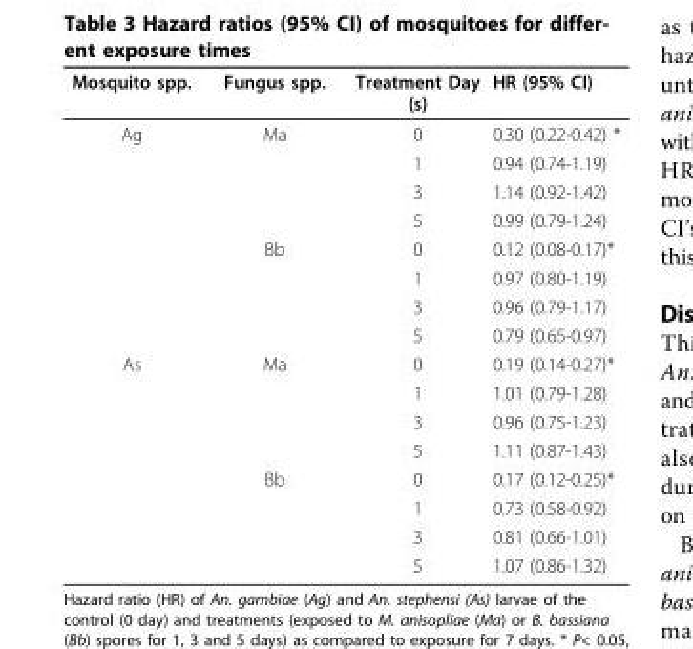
<table><thead><tr><td>Mosquito spp.</td><td>Fungus spp.</td><td>Treatment Day (s)</td><td>HR (95% CI)</td></tr></thead><tbody><tr><td rowspan="8">Ag</td><td>Ma</td><td>0</td><td>0.30 (0.22-0.42) *</td></tr><tr><td></td><td>1</td><td>0.94 (0.74-1.19)</td></tr><tr><td></td><td>3</td><td>1.14 (0.92-1.42)</td></tr><tr><td></td><td>5</td><td>0.99 (0.79-1.24)</td></tr><tr><td>Bb</td><td>0</td><td>0.12 (0.08-0.17)*</td></tr><tr><td></td><td>1</td><td>0.97 (0.80-1.19)</td></tr><tr><td></td><td>3</td><td>0.96 (0.79-1.17)</td></tr><tr><td></td><td>5</td><td>0.79 (0.65-0.97)</td></tr><tr><td rowspan="8">As</td><td>Ma</td><td>0</td><td>0.19 (0.14-0.27)*</td></tr><tr><td></td><td>1</td><td>1.01 (0.79-1.28)</td></tr><tr><td></td><td>3</td><td>0.96 (0.75-1.23)</td></tr><tr><td></td><td>5</td><td>1.11 (0.87-1.43)</td></tr><tr><td>Bb</td><td>0</td><td>0.17 (0.12-0.25)*</td></tr><tr><td></td><td>1</td><td>0.73 (0.58-0.92)</td></tr><tr><td></td><td>3</td><td>0.81 (0.66-1.01)</td></tr><tr><td></td><td>5</td><td>1.07 (0.86-1.32)</td></tr></tbody></table>